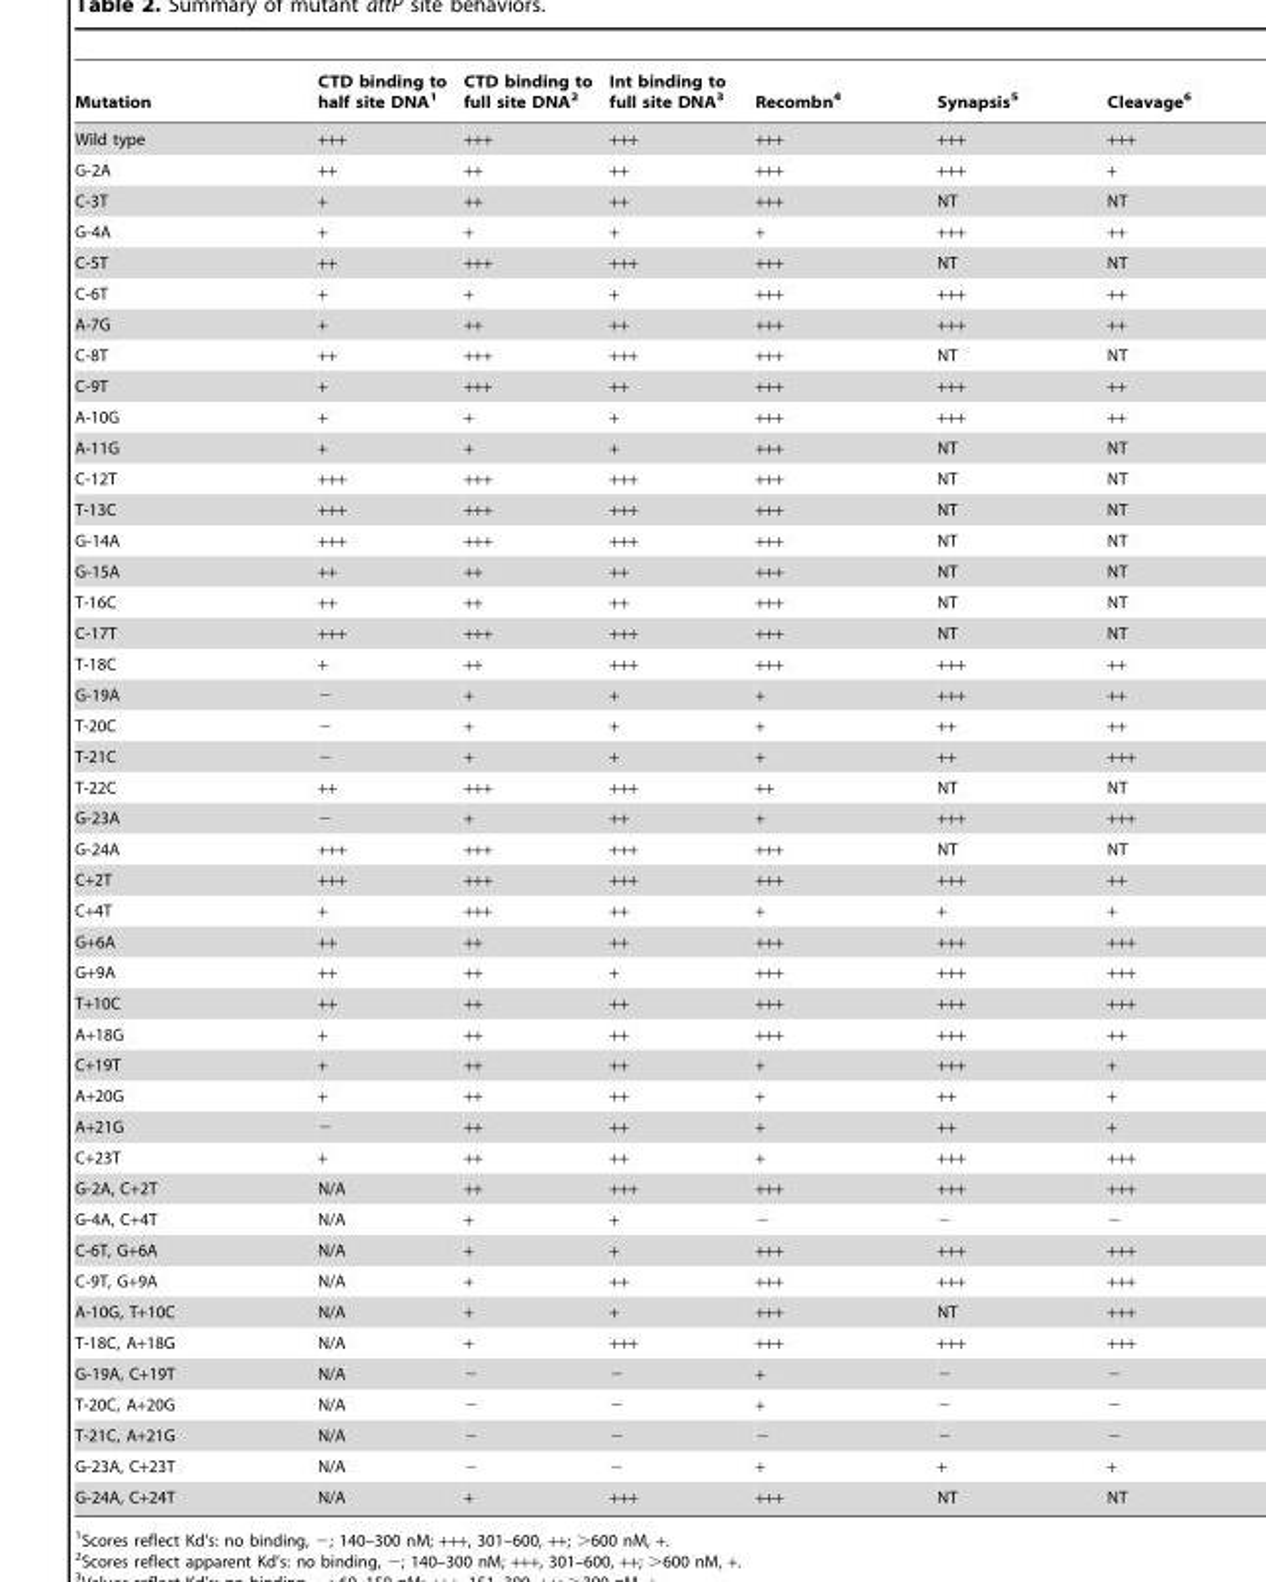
<table><thead><tr><td>Mutation</td><td>CTD binding to half site DNA<sup>1</sup></td><td>CTD binding to full site DNA<sup>2</sup></td><td>Int binding to full site DNA<sup>3</sup></td><td>Recombn<sup>4</sup></td><td>Synapsis<sup>5</sup></td><td>Cleavage<sup>6</sup></td></tr></thead><tbody><tr><td>Wild type</td><td>+++</td><td>+++</td><td>+++</td><td>+++</td><td>+++</td><td>+++</td></tr><tr><td>G-2A</td><td>++</td><td>++</td><td>++</td><td>+++</td><td>+++</td><td>+</td></tr><tr><td>C-3T</td><td>+</td><td>++</td><td>++</td><td>+++</td><td>NT</td><td>NT</td></tr><tr><td>G-4A</td><td>+</td><td>+</td><td>+</td><td>+</td><td>+++</td><td>++</td></tr><tr><td>C-5T</td><td>++</td><td>+++</td><td>+++</td><td>+++</td><td>NT</td><td>NT</td></tr><tr><td>C-6T</td><td>+</td><td>+</td><td>+</td><td>+++</td><td>+++</td><td>++</td></tr><tr><td>A-7G</td><td>+</td><td>++</td><td>++</td><td>+++</td><td>+++</td><td>++</td></tr><tr><td>C-8T</td><td>++</td><td>+++</td><td>+++</td><td>+++</td><td>NT</td><td>NT</td></tr><tr><td>C-9T</td><td>+</td><td>+++</td><td>++</td><td>+++</td><td>+++</td><td>++</td></tr><tr><td>A-10G</td><td>+</td><td>+</td><td>+</td><td>+++</td><td>+++</td><td>++</td></tr><tr><td>A-11G</td><td>+</td><td>+</td><td>+</td><td>+++</td><td>NT</td><td>NT</td></tr><tr><td>C-12T</td><td>+++</td><td>+++</td><td>+++</td><td>+++</td><td>NT</td><td>NT</td></tr><tr><td>T-13C</td><td>+++</td><td>+++</td><td>+++</td><td>+++</td><td>NT</td><td>NT</td></tr><tr><td>G-14A</td><td>+++</td><td>+++</td><td>+++</td><td>+++</td><td>NT</td><td>NT</td></tr><tr><td>G-15A</td><td>++</td><td>++</td><td>++</td><td>+++</td><td>NT</td><td>NT</td></tr><tr><td>T-16C</td><td>++</td><td>++</td><td>++</td><td>+++</td><td>NT</td><td>NT</td></tr><tr><td>C-17T</td><td>+++</td><td>+++</td><td>+++</td><td>+++</td><td>NT</td><td>NT</td></tr><tr><td>T-18C</td><td>+</td><td>++</td><td>+++</td><td>+++</td><td>+++</td><td>++</td></tr><tr><td>G-19A</td><td>−</td><td>+</td><td>+</td><td>+</td><td>+++</td><td>++</td></tr><tr><td>T-20C</td><td>−</td><td>+</td><td>+</td><td>+</td><td>++</td><td>++</td></tr><tr><td>T-21C</td><td>−</td><td>+</td><td>+</td><td>+</td><td>++</td><td>+++</td></tr><tr><td>T-22C</td><td>++</td><td>+++</td><td>+++</td><td>++</td><td>NT</td><td>NT</td></tr><tr><td>G-23A</td><td>−</td><td>+</td><td>++</td><td>+</td><td>+++</td><td>+++</td></tr><tr><td>G-24A</td><td>+++</td><td>+++</td><td>+++</td><td>+++</td><td>NT</td><td>NT</td></tr><tr><td>C+2T</td><td>+++</td><td>+++</td><td>+++</td><td>+++</td><td>+++</td><td>++</td></tr><tr><td>C+4T</td><td>+</td><td>+++</td><td>++</td><td>+</td><td>+</td><td>+</td></tr><tr><td>G+6A</td><td>++</td><td>++</td><td>++</td><td>+++</td><td>+++</td><td>+++</td></tr><tr><td>G+9A</td><td>++</td><td>++</td><td>+</td><td>+++</td><td>+++</td><td>+++</td></tr><tr><td>T+10C</td><td>++</td><td>++</td><td>++</td><td>+++</td><td>+++</td><td>+++</td></tr><tr><td>A+18G</td><td>+</td><td>++</td><td>++</td><td>+++</td><td>+++</td><td>++</td></tr><tr><td>C+19T</td><td>+</td><td>++</td><td>++</td><td>+</td><td>+++</td><td>+</td></tr><tr><td>A+20G</td><td>+</td><td>++</td><td>++</td><td>+</td><td>++</td><td>+</td></tr><tr><td>A+21G</td><td>−</td><td>++</td><td>++</td><td>+</td><td>++</td><td>+</td></tr><tr><td>C+23T</td><td>+</td><td>++</td><td>++</td><td>+</td><td>+++</td><td>+++</td></tr><tr><td>G-2A, C+2T</td><td>N/A</td><td>++</td><td>+++</td><td>+++</td><td>+++</td><td>+++</td></tr><tr><td>G-4A, C+4T</td><td>N/A</td><td>+</td><td>+</td><td>−</td><td>−</td><td>−</td></tr><tr><td>C-6T, G+6A</td><td>N/A</td><td>+</td><td>+</td><td>+++</td><td>+++</td><td>+++</td></tr><tr><td>C-9T, G+9A</td><td>N/A</td><td>+</td><td>++</td><td>+++</td><td>+++</td><td>+++</td></tr><tr><td>A-10G, T+10C</td><td>N/A</td><td>+</td><td>+</td><td>+++</td><td>NT</td><td>+++</td></tr><tr><td>T-18C, A+18G</td><td>N/A</td><td>+</td><td>+++</td><td>+++</td><td>+++</td><td>+++</td></tr><tr><td>G-19A, C+19T</td><td>N/A</td><td>−</td><td>−</td><td>+</td><td>−</td><td>−</td></tr><tr><td>T-20C, A+20G</td><td>N/A</td><td>−</td><td>−</td><td>+</td><td>−</td><td>−</td></tr><tr><td>T-21C, A+21G</td><td>N/A</td><td>−</td><td>−</td><td>−</td><td>−</td><td>−</td></tr><tr><td>G-23A, C+23T</td><td>N/A</td><td>−</td><td>−</td><td>+</td><td>+</td><td>+</td></tr><tr><td>G-24A, C+24T</td><td>N/A</td><td>+</td><td>+++</td><td>+++</td><td>NT</td><td>NT</td></tr></tbody></table>